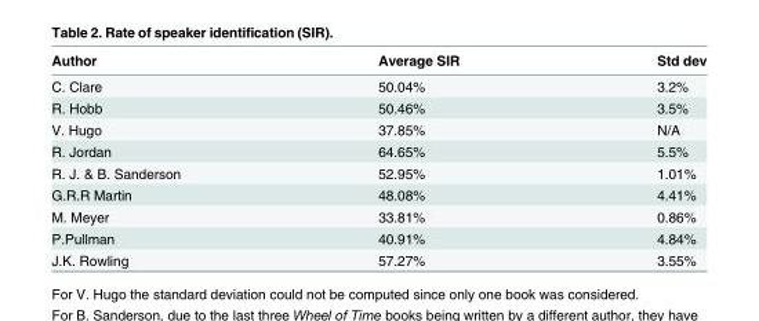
<table><thead><tr><td>Author</td><td>Average SIR</td><td>Std dev</td></tr></thead><tbody><tr><td>C. Clare</td><td>50.04%</td><td>3.2%</td></tr><tr><td>R. Hobb</td><td>50.46%</td><td>3.5%</td></tr><tr><td>V. Hugo</td><td>37.85%</td><td>N/A</td></tr><tr><td>R. Jordan</td><td>64.65%</td><td>5.5%</td></tr><tr><td>R. J. &amp; B. Sanderson</td><td>52.95%</td><td>1.01%</td></tr><tr><td>G.R.R Martin</td><td>48.08%</td><td>4.41%</td></tr><tr><td>M. Meyer</td><td>33.81%</td><td>0.86%</td></tr><tr><td>P.Pullman</td><td>40.91%</td><td>4.84%</td></tr><tr><td>J.K. Rowling</td><td>57.27%</td><td>3.55%</td></tr></tbody></table>